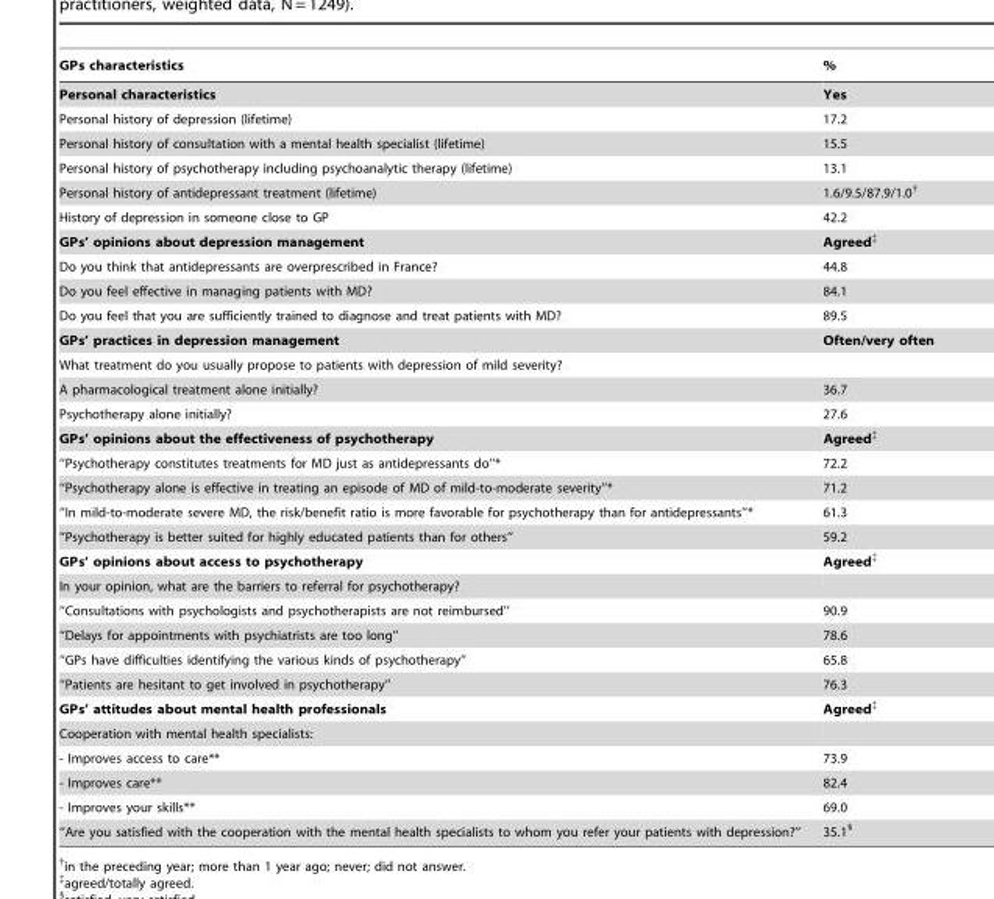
<table><thead><tr><td>GPs characteristics</td><td>%</td></tr></thead><tbody><tr><td>Personal characteristics</td><td>Yes</td></tr><tr><td>Personal history of depression (lifetime)</td><td>17.2</td></tr><tr><td>Personal history of consultation with a mental health specialist (lifetime)</td><td>15.5</td></tr><tr><td>Personal history of psychotherapy including psychoanalytic therapy (lifetime)</td><td>13.1</td></tr><tr><td>Personal history of antidepressant treatment (lifetime)</td><td>1.6/9.5/87.9/1.0†</td></tr><tr><td>History of depression in someone close to GP</td><td>42.2</td></tr><tr><td>GPs’ opinions about depression management</td><td>Agreed‡</td></tr><tr><td>Do you think that antidepressants are overprescribed in France?</td><td>44.8</td></tr><tr><td>Do you feel effective in managing patients with MD?</td><td>84.1</td></tr><tr><td>Do you feel that you are sufficiently trained to diagnose and treat patients with MD?</td><td>89.5</td></tr><tr><td>GPs’ practices in depression management</td><td>Often/very often</td></tr><tr><td colspan="2">What treatment do you usually propose to patients with depression of mild severity?</td></tr><tr><td>A pharmacological treatment alone initially?</td><td>36.7</td></tr><tr><td>Psychotherapy alone initially?</td><td>27.6</td></tr><tr><td>GPs’ opinions about the effectiveness of psychotherapy</td><td>Agreed‡</td></tr><tr><td>‘‘Psychotherapy constitutes treatments for MD just as antidepressants do’’*</td><td>72.2</td></tr><tr><td>‘‘Psychotherapy alone is effective in treating an episode of MD of mild-to-moderate severity’’*</td><td>71.2</td></tr><tr><td>‘‘In mild-to-moderate severe MD, the risk/benefit ratio is more favorable for psychotherapy than for antidepressants’’*</td><td>61.3</td></tr><tr><td>‘‘Psychotherapy is better suited for highly educated patients than for others’’</td><td>59.2</td></tr><tr><td>GPs’ opinions about access to psychotherapy</td><td>Agreed‡</td></tr><tr><td colspan="2">In your opinion, what are the barriers to referral for psychotherapy?</td></tr><tr><td>‘‘Consultations with psychologists and psychotherapists are not reimbursed’’</td><td>90.9</td></tr><tr><td>‘‘Delays for appointments with psychiatrists are too long’’</td><td>78.6</td></tr><tr><td>‘‘GPs have difficulties identifying the various kinds of psychotherapy’’</td><td>65.8</td></tr><tr><td>‘‘Patients are hesitant to get involved in psychotherapy’’</td><td>76.3</td></tr><tr><td>GPs’ attitudes about mental health professionals</td><td>Agreed‡</td></tr><tr><td colspan="2">Cooperation with mental health specialists:</td></tr><tr><td>- Improves access to care**</td><td>73.9</td></tr><tr><td>- Improves care**</td><td>82.4</td></tr><tr><td>- Improves your skills**</td><td>69.0</td></tr><tr><td>‘‘Are you satisfied with the cooperation with the mental health specialists to whom you refer your patients with depression?’’</td><td>35.1§</td></tr></tbody></table>